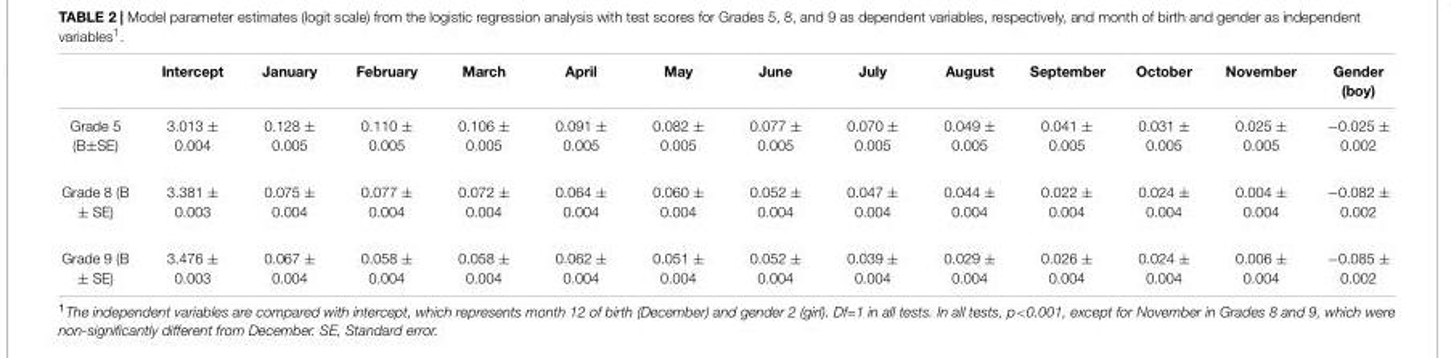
<table><thead><tr><td></td><td>Intercept</td><td>January</td><td>February</td><td>March</td><td>April</td><td>May</td><td>June</td><td>July</td><td>August</td><td>September</td><td>October</td><td>November</td><td>Gender (boy)</td></tr></thead><tbody><tr><td>Grade 5 (B±SE)</td><td>3.013 ± 0.004</td><td>0.128 ± 0.005</td><td>0.110 ± 0.005</td><td>0.106 ± 0.005</td><td>0.091 ± 0.005</td><td>0.082 ± 0.005</td><td>0.077 ± 0.005</td><td>0.070 ± 0.005</td><td>0.049 ± 0.005</td><td>0.041 ± 0.005</td><td>0.031 ± 0.005</td><td>0.025 ± 0.005</td><td>−0.025 ± 0.002</td></tr><tr><td>Grade 8 (B ± SE)</td><td>3.381 ± 0.003</td><td>0.075 ± 0.004</td><td>0.077 ± 0.004</td><td>0.072 ± 0.004</td><td>0.064 ± 0.004</td><td>0.060 ± 0.004</td><td>0.052 ± 0.004</td><td>0.047 ± 0.004</td><td>0.044 ± 0.004</td><td>0.022 ± 0.004</td><td>0.024 ± 0.004</td><td>0.004 ± 0.004</td><td>−0.082 ± 0.002</td></tr><tr><td>Grade 9 (B ± SE)</td><td>3.476 ± 0.003</td><td>0.067 ± 0.004</td><td>0.058 ± 0.004</td><td>0.058 ± 0.004</td><td>0.062 ± 0.004</td><td>0.051 ± 0.004</td><td>0.052 ± 0.004</td><td>0.039 ± 0.004</td><td>0.029 ± 0.004</td><td>0.026 ± 0.004</td><td>0.024 ± 0.004</td><td>0.006 ± 0.004</td><td>−0.085 ± 0.002</td></tr></tbody></table>